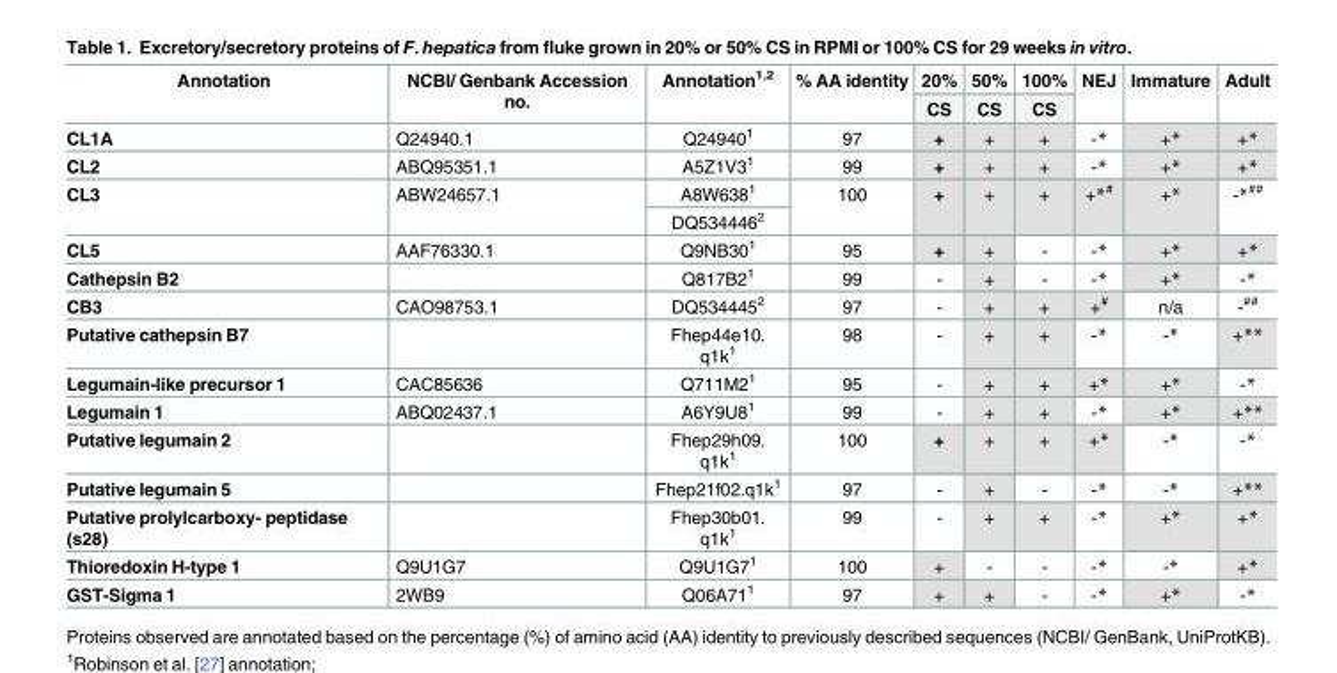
<table><thead><tr><td rowspan="2">Annotation</td><td rowspan="2">NCBI/ Genbank Accession no.</td><td rowspan="2">Annotation<sup>1,2</sup></td><td rowspan="2">% AA identity</td><td rowspan="2">20% CS</td><td rowspan="2">50% CS</td><td rowspan="2">100% CS</td><td rowspan="2">NEJ</td><td rowspan="2">Immature</td><td rowspan="2">Adult</td></tr><tr></tr></thead><tbody><tr><td>CL1A</td><td>Q24940.1</td><td>Q24940<sup>1</sup></td><td>97</td><td>+</td><td>+</td><td>+</td><td>-*</td><td>+*</td><td>+*</td></tr><tr><td>CL2</td><td>ABQ95351.1</td><td>A5Z1V3<sup>1</sup></td><td>99</td><td>+</td><td>+</td><td>+</td><td>-*</td><td>+*</td><td>+*</td></tr><tr><td rowspan="2">CL3</td><td rowspan="2">ABW24657.1</td><td>A8W638<sup>1</sup></td><td rowspan="2">100</td><td rowspan="2">+</td><td rowspan="2">+</td><td rowspan="2">+</td><td rowspan="2">+*<sup>#</sup></td><td rowspan="2">+*</td><td rowspan="2">-*<sup>##</sup></td></tr><tr><td>DQ534446<sup>2</sup></td></tr><tr><td>CL5</td><td>AAF76330.1</td><td>Q9NB30<sup>1</sup></td><td>95</td><td>+</td><td>+</td><td>-</td><td>-*</td><td>+*</td><td>+*</td></tr><tr><td>Cathepsin B2</td><td></td><td>Q817B2<sup>1</sup></td><td>99</td><td>-</td><td>+</td><td>-</td><td>-*</td><td>+*</td><td>-*</td></tr><tr><td>CB3</td><td>CAO98753.1</td><td>DQ534445<sup>2</sup></td><td>97</td><td>-</td><td>+</td><td>+</td><td>+<sup>#</sup></td><td>n/a</td><td>-<sup>##</sup></td></tr><tr><td>Putative cathepsin B7</td><td></td><td>Fhep44e10. q1k<sup>1</sup></td><td>98</td><td>-</td><td>+</td><td>+</td><td>-*</td><td>-*</td><td>+**</td></tr><tr><td>Legumain-like precursor 1</td><td>CAC85636</td><td>Q711M2<sup>1</sup></td><td>95</td><td>-</td><td>+</td><td>+</td><td>+*</td><td>+*</td><td>-*</td></tr><tr><td>Legumain 1</td><td>ABQ02437.1</td><td>A6Y9U8<sup>1</sup></td><td>99</td><td>-</td><td>+</td><td>+</td><td>-*</td><td>+*</td><td>+**</td></tr><tr><td>Putative legumain 2</td><td></td><td>Fhep29h09. q1k<sup>1</sup></td><td>100</td><td>+</td><td>+</td><td>+</td><td>+*</td><td>-*</td><td>-*</td></tr><tr><td>Putative legumain 5</td><td></td><td>Fhep21f02.q1k<sup>1</sup></td><td>97</td><td>-</td><td>+</td><td>-</td><td>-*</td><td>-*</td><td>+**</td></tr><tr><td>Putative prolylcarboxy- peptidase (s28)</td><td></td><td>Fhep30b01. q1k<sup>1</sup></td><td>99</td><td>-</td><td>+</td><td>+</td><td>-*</td><td>+*</td><td>+*</td></tr><tr><td>Thioredoxin H-type 1</td><td>Q9U1G7</td><td>Q9U1G7<sup>1</sup></td><td>100</td><td>+</td><td>-</td><td>-</td><td>-*</td><td>-*</td><td>+*</td></tr><tr><td>GST-Sigma 1</td><td>2WB9</td><td>Q06A71<sup>1</sup></td><td>97</td><td>+</td><td>+</td><td>-</td><td>-*</td><td>+*</td><td>-*</td></tr></tbody></table>